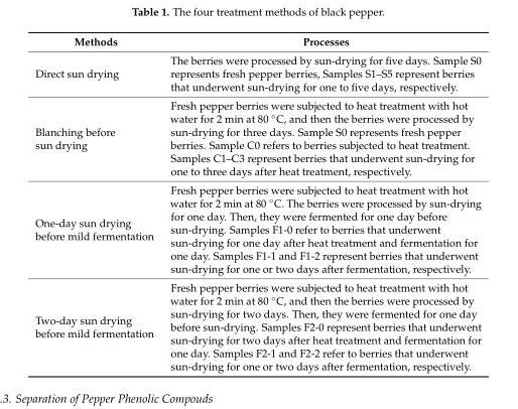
<table><thead><tr><td>Methods</td><td>Processes</td></tr></thead><tbody><tr><td>Direct sun drying</td><td>The berries were processed by sun-drying for five days. Sample S0 represents fresh pepper berries, Samples S1–S5 represent berries that underwent sun-drying for one to five days, respectively.</td></tr><tr><td>Blanching before sun drying</td><td>Fresh pepper berries were subjected to heat treatment with hot water for 2 min at 80 ◦C, and then the berries were processed by sun-drying for three days. Sample S0 represents fresh pepper berries. Sample C0 refers to berries subjected to heat treatment. Samples C1–C3 represent berries that underwent sun-drying for one to three days after heat treatment, respectively.</td></tr><tr><td>One-day sun drying before mild fermentation</td><td>Fresh pepper berries were subjected to heat treatment with hot water for 2 min at 80 ◦C. The berries were processed by sun-drying for one day. Then, they were fermented for one day before sun-drying. Samples F1-0 refer to berries that underwent sun-drying for one day after heat treatment and fermentation for one day. Samples F1-1 and F1-2 represent berries that underwent sun-drying for one or two days after fermentation, respectively.</td></tr><tr><td>Two-day sun drying before mild fermentation</td><td>Fresh pepper berries were subjected to heat treatment with hot water for 2 min at 80 ◦C, and then the berries were processed by sun-drying for two days. Then, they were fermented for one day before sun-drying. Samples F2-0 represent berries that underwent sun-drying for two days after heat treatment and fermentation for one day. Samples F2-1 and F2-2 refer to berries that underwent sun-drying for one or two days after fermentation, respectively.</td></tr></tbody></table>